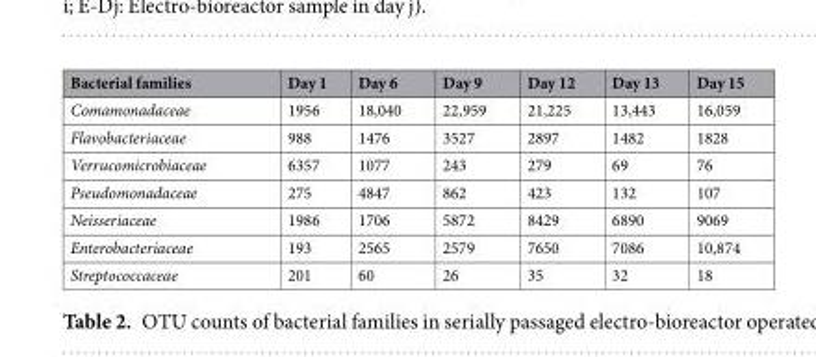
<table><thead><tr><td>Bacterial families</td><td>Day 1</td><td>Day 6</td><td>Day 9</td><td>Day 12</td><td>Day 13</td><td>Day 15</td></tr></thead><tbody><tr><td>Comamonadaceae</td><td>1956</td><td>18,040</td><td>22,959</td><td>21,225</td><td>13,443</td><td>16,059</td></tr><tr><td>Flavobacteriaceae</td><td>988</td><td>1476</td><td>3527</td><td>2897</td><td>1482</td><td>1828</td></tr><tr><td>Verrucomicrobiaceae</td><td>6357</td><td>1077</td><td>243</td><td>279</td><td>69</td><td>76</td></tr><tr><td>Pseudomonadaceae</td><td>275</td><td>4847</td><td>862</td><td>423</td><td>132</td><td>107</td></tr><tr><td>Neisseriaceae</td><td>1986</td><td>1706</td><td>5872</td><td>8429</td><td>6890</td><td>9069</td></tr><tr><td>Enterobacteriaceae</td><td>193</td><td>2565</td><td>2579</td><td>7650</td><td>7086</td><td>10,874</td></tr><tr><td>Streptococcaceae</td><td>201</td><td>60</td><td>26</td><td>35</td><td>32</td><td>18</td></tr></tbody></table>